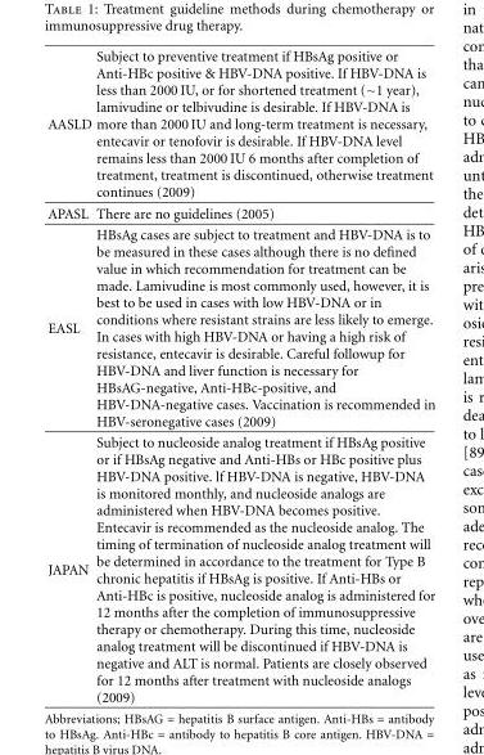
<table><thead><tr><td>AASLD</td><td>Subject to preventive treatment if HBsAg positive or Anti-HBc positive &amp; HBV-DNA positive. If HBV-DNA is less than 2000 IU, or for shortened treatment (∼1 year), lamivudine or telbivudine is desirable. If HBV-DNA is more than 2000 IU and long-term treatment is necessary, entecavir or tenofovir is desirable. If HBV-DNA level remains less than 2000 IU 6 months after completion of treatment, treatment is discontinued, otherwise treatment continues (2009)</td></tr></thead><tbody><tr><td>APASL</td><td>There are no guidelines (2005)</td></tr><tr><td>EASL</td><td>HBsAg cases are subject to treatment and HBV-DNA is to be measured in these cases although there is no defined value in which recommendation for treatment can be made. Lamivudine is most commonly used, however, it is best to be used in cases with low HBV-DNA or in conditions where resistant strains are less likely to emerge. In cases with high HBV-DNA or having a high risk of resistance, entecavir is desirable. Careful followup for HBV-DNA and liver function is necessary for HBsAG-negative, Anti-HBc-positive, and HBV-DNA-negative cases. Vaccination is recommended in HBV-seronegative cases (2009)</td></tr><tr><td>JAPAN</td><td>Subject to nucleoside analog treatment if HBsAg positive or if HBsAg negative and Anti-HBs or HBc positive plus HBV-DNA positive. lf HBV-DNA is negative, HBV-DNA is monitored monthly, and nucleoside analogs are administered when HBV-DNA becomes positive. Entecavir is recommended as the nucleoside analog. The timing of termination of nucleoside analog treatment will be determined in accordance to the treatment for Type B chronic hepatitis if HBsAg is positive. If Anti-HBs or Anti-HBc is positive, nucleoside analog is administered for 12 months after the completion of immunosuppressive therapy or chemotherapy. During this time, nucleoside analog treatment will be discontinued if HBV-DNA is negative and ALT is normal. Patients are closely observed for 12 months after treatment with nucleoside analogs (2009)</td></tr></tbody></table>